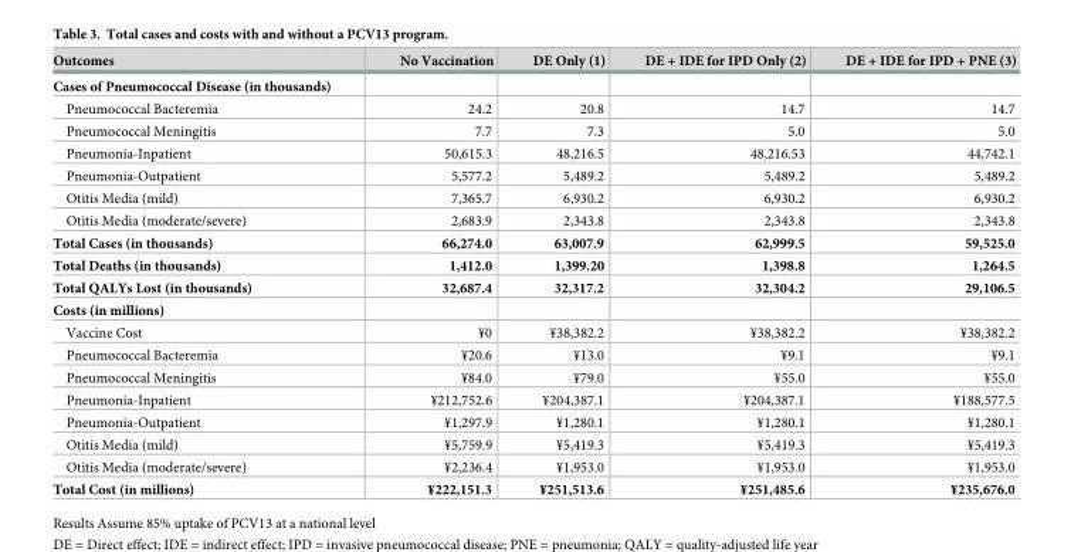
<table><thead><tr><td>Outcomes</td><td>No Vaccination</td><td>DE Only (1)</td><td>DE + IDE for IPD Only (2)</td><td>DE + IDE for IPD + PNE (3)</td></tr></thead><tbody><tr><td colspan="5">Cases of Pneumococcal Disease (in thousands)</td></tr><tr><td>Pneumococcal Bacteremia</td><td>24.2</td><td>20.8</td><td>14.7</td><td>14.7</td></tr><tr><td>Pneumococcal Meningitis</td><td>7.7</td><td>7.3</td><td>5.0</td><td>5.0</td></tr><tr><td>Pneumonia-Inpatient</td><td>50,615.3</td><td>48,216.5</td><td>48,216.53</td><td>44,742.1</td></tr><tr><td>Pneumonia-Outpatient</td><td>5,577.2</td><td>5,489.2</td><td>5,489.2</td><td>5,489.2</td></tr><tr><td>Otitis Media (mild)</td><td>7,365.7</td><td>6,930.2</td><td>6,930.2</td><td>6,930.2</td></tr><tr><td>Otitis Media (moderate/severe)</td><td>2,683.9</td><td>2,343.8</td><td>2,343.8</td><td>2,343.8</td></tr><tr><td>Total Cases (in thousands)</td><td>66,274.0</td><td>63,007.9</td><td>62,999.5</td><td>59,525.0</td></tr><tr><td>Total Deaths (in thousands)</td><td>1,412.0</td><td>1,399.20</td><td>1,398.8</td><td>1,264.5</td></tr><tr><td>Total QALYs Lost (in thousands)</td><td>32,687.4</td><td>32,317.2</td><td>32,304.2</td><td>29,106.5</td></tr><tr><td colspan="5">Costs (in millions)</td></tr><tr><td>Vaccine Cost</td><td>¥0</td><td>¥38,382.2</td><td>¥38,382.2</td><td>¥38,382.2</td></tr><tr><td>Pneumococcal Bacteremia</td><td>¥20.6</td><td>¥13.0</td><td>¥9.1</td><td>¥9.1</td></tr><tr><td>Pneumococcal Meningitis</td><td>¥84.0</td><td>¥79.0</td><td>¥55.0</td><td>¥55.0</td></tr><tr><td>Pneumonia-Inpatient</td><td>¥212,752.6</td><td>¥204,387.1</td><td>¥204,387.1</td><td>¥188,577.5</td></tr><tr><td>Pneumonia-Outpatient</td><td>¥1,297.9</td><td>¥1,280.1</td><td>¥1,280.1</td><td>¥1,280.1</td></tr><tr><td>Otitis Media (mild)</td><td>¥5,759.9</td><td>¥5,419.3</td><td>¥5,419.3</td><td>¥5,419.3</td></tr><tr><td>Otitis Media (moderate/severe)</td><td>¥2,236.4</td><td>¥1,953.0</td><td>¥1,953.0</td><td>¥1,953.0</td></tr><tr><td>Total Cost (in millions)</td><td>¥222,151.3</td><td>¥251,513.6</td><td>¥251,485.6</td><td>¥235,676.0</td></tr></tbody></table>